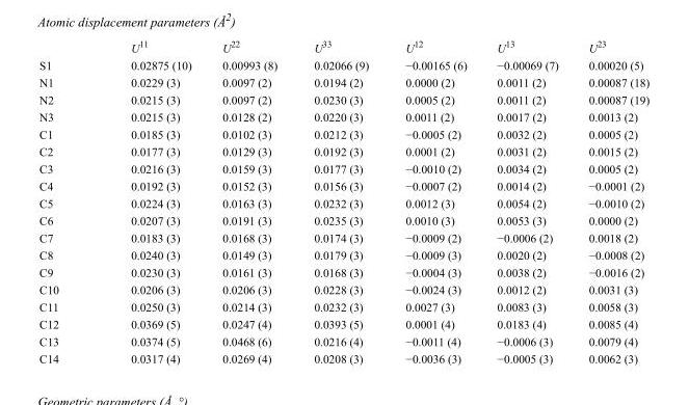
<table><thead><tr><td></td><td>U<sup>11</sup></td><td>U<sup>22</sup></td><td>U<sup>33</sup></td><td>U<sup>12</sup></td><td>U<sup>13</sup></td><td>U<sup>23</sup></td></tr></thead><tbody><tr><td>S1</td><td>0.02875 (10)</td><td>0.00993 (8)</td><td>0.02066 (9)</td><td>−0.00165 (6)</td><td>−0.00069 (7)</td><td>0.00020 (5)</td></tr><tr><td>N1</td><td>0.0229 (3)</td><td>0.0097 (2)</td><td>0.0194 (2)</td><td>0.0000 (2)</td><td>0.0011 (2)</td><td>0.00087 (18)</td></tr><tr><td>N2</td><td>0.0215 (3)</td><td>0.0097 (2)</td><td>0.0230 (3)</td><td>0.0005 (2)</td><td>0.0011 (2)</td><td>0.00087 (19)</td></tr><tr><td>N3</td><td>0.0215 (3)</td><td>0.0128 (2)</td><td>0.0220 (3)</td><td>0.0011 (2)</td><td>0.0017 (2)</td><td>0.0013 (2)</td></tr><tr><td>C1</td><td>0.0185 (3)</td><td>0.0102 (3)</td><td>0.0212 (3)</td><td>−0.0005 (2)</td><td>0.0032 (2)</td><td>0.0005 (2)</td></tr><tr><td>C2</td><td>0.0177 (3)</td><td>0.0129 (3)</td><td>0.0192 (3)</td><td>0.0001 (2)</td><td>0.0031 (2)</td><td>0.0015 (2)</td></tr><tr><td>C3</td><td>0.0216 (3)</td><td>0.0159 (3)</td><td>0.0177 (3)</td><td>−0.0010 (2)</td><td>0.0034 (2)</td><td>0.0005 (2)</td></tr><tr><td>C4</td><td>0.0192 (3)</td><td>0.0152 (3)</td><td>0.0156 (3)</td><td>−0.0007 (2)</td><td>0.0014 (2)</td><td>−0.0001 (2)</td></tr><tr><td>C5</td><td>0.0224 (3)</td><td>0.0163 (3)</td><td>0.0232 (3)</td><td>0.0012 (3)</td><td>0.0054 (2)</td><td>−0.0010 (2)</td></tr><tr><td>C6</td><td>0.0207 (3)</td><td>0.0191 (3)</td><td>0.0235 (3)</td><td>0.0010 (3)</td><td>0.0053 (3)</td><td>0.0000 (2)</td></tr><tr><td>C7</td><td>0.0183 (3)</td><td>0.0168 (3)</td><td>0.0174 (3)</td><td>−0.0009 (2)</td><td>−0.0006 (2)</td><td>0.0018 (2)</td></tr><tr><td>C8</td><td>0.0240 (3)</td><td>0.0149 (3)</td><td>0.0179 (3)</td><td>−0.0009 (3)</td><td>0.0020 (2)</td><td>−0.0008 (2)</td></tr><tr><td>C9</td><td>0.0230 (3)</td><td>0.0161 (3)</td><td>0.0168 (3)</td><td>−0.0004 (3)</td><td>0.0038 (2)</td><td>−0.0016 (2)</td></tr><tr><td>C10</td><td>0.0206 (3)</td><td>0.0206 (3)</td><td>0.0228 (3)</td><td>−0.0024 (3)</td><td>0.0012 (2)</td><td>0.0031 (3)</td></tr><tr><td>C11</td><td>0.0250 (3)</td><td>0.0214 (3)</td><td>0.0232 (3)</td><td>0.0027 (3)</td><td>0.0083 (3)</td><td>0.0058 (3)</td></tr><tr><td>C12</td><td>0.0369 (5)</td><td>0.0247 (4)</td><td>0.0393 (5)</td><td>0.0001 (4)</td><td>0.0183 (4)</td><td>0.0085 (4)</td></tr><tr><td>C13</td><td>0.0374 (5)</td><td>0.0468 (6)</td><td>0.0216 (4)</td><td>−0.0011 (4)</td><td>−0.0006 (3)</td><td>0.0079 (4)</td></tr><tr><td>C14</td><td>0.0317 (4)</td><td>0.0269 (4)</td><td>0.0208 (3)</td><td>−0.0036 (3)</td><td>−0.0005 (3)</td><td>0.0062 (3)</td></tr></tbody></table>